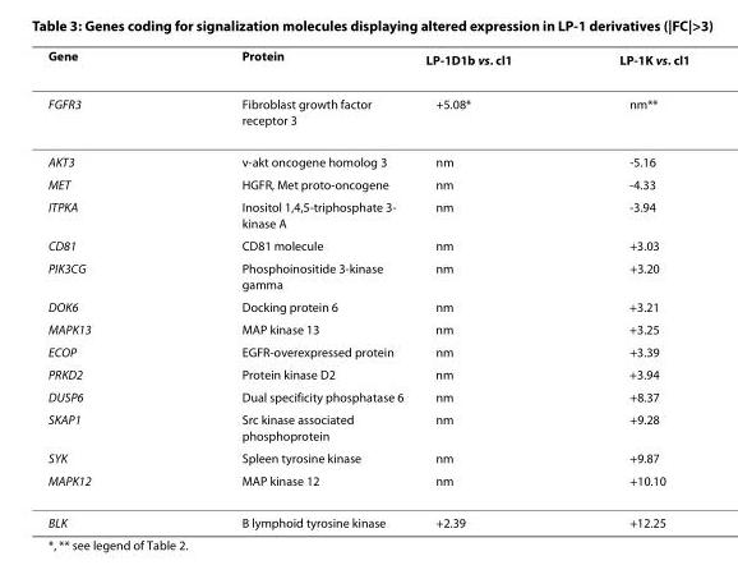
<table><thead><tr><td>Gene</td><td>Protein</td><td>LP-1D1b vs. cl1</td><td>LP-1K vs. cl1</td></tr></thead><tbody><tr><td>FGFR3</td><td>Fibroblast growth factor receptor 3</td><td>+5.08*</td><td>nm**</td></tr><tr><td>AKT3</td><td>v-akt oncogene homolog 3</td><td>nm</td><td>-5.16</td></tr><tr><td>MET</td><td>HGFR, Met proto-oncogene</td><td>nm</td><td>-4.33</td></tr><tr><td>ITPKA</td><td>Inositol 1,4,5-triphosphate 3- kinase A</td><td>nm</td><td>-3.94</td></tr><tr><td>CD81</td><td>CD81 molecule</td><td>nm</td><td>+3.03</td></tr><tr><td>PIK3CG</td><td>Phosphoinositide 3-kinase gamma</td><td>nm</td><td>+3.20</td></tr><tr><td>DOK6</td><td>Docking protein 6</td><td>nm</td><td>+3.21</td></tr><tr><td>MAPK13</td><td>MAP kinase 13</td><td>nm</td><td>+3.25</td></tr><tr><td>ECOP</td><td>EGFR-overexpressed protein</td><td>nm</td><td>+3.39</td></tr><tr><td>PRKD2</td><td>Protein kinase D2</td><td>nm</td><td>+3.94</td></tr><tr><td>DUSP6</td><td>Dual specificity phosphatase 6</td><td>nm</td><td>+8.37</td></tr><tr><td>SKAP1</td><td>Src kinase associated phosphoprotein</td><td>nm</td><td>+9.28</td></tr><tr><td>SYK</td><td>Spleen tyrosine kinase</td><td>nm</td><td>+9.87</td></tr><tr><td>MAPK12</td><td>MAP kinase 12</td><td>nm</td><td>+10.10</td></tr><tr><td>BLK</td><td>B lymphoid tyrosine kinase</td><td>+2.39</td><td>+12.25</td></tr></tbody></table>